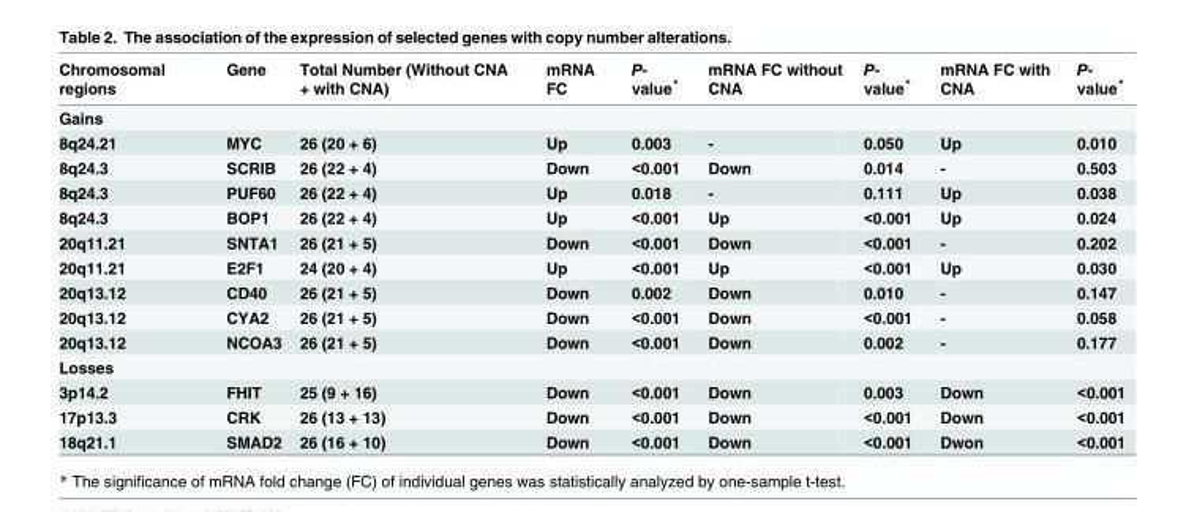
<table><thead><tr><td>Chromosomal regions</td><td>Gene</td><td>Total Number (Without CNA + with CNA)</td><td>mRNA FC</td><td>P- value*</td><td>mRNA FC without CNA</td><td>P- value*</td><td>mRNA FC with CNA</td><td>P- value*</td></tr></thead><tbody><tr><td colspan="9">Gains</td></tr><tr><td>8q24.21</td><td>MYC</td><td>26 (20 + 6)</td><td>Up</td><td>0.003</td><td>-</td><td>0.050</td><td>Up</td><td>0.010</td></tr><tr><td>8q24.3</td><td>SCRIB</td><td>26 (22 + 4)</td><td>Down</td><td>&lt;0.001</td><td>Down</td><td>0.014</td><td>-</td><td>0.503</td></tr><tr><td>8q24.3</td><td>PUF60</td><td>26 (22 + 4)</td><td>Up</td><td>0.018</td><td>-</td><td>0.111</td><td>Up</td><td>0.038</td></tr><tr><td>8q24.3</td><td>BOP1</td><td>26 (22 + 4)</td><td>Up</td><td>&lt;0.001</td><td>Up</td><td>&lt;0.001</td><td>Up</td><td>0.024</td></tr><tr><td>20q11.21</td><td>SNTA1</td><td>26 (21 + 5)</td><td>Down</td><td>&lt;0.001</td><td>Down</td><td>&lt;0.001</td><td>-</td><td>0.202</td></tr><tr><td>20q11.21</td><td>E2F1</td><td>24 (20 + 4)</td><td>Up</td><td>&lt;0.001</td><td>Up</td><td>&lt;0.001</td><td>Up</td><td>0.030</td></tr><tr><td>20q13.12</td><td>CD40</td><td>26 (21 + 5)</td><td>Down</td><td>0.002</td><td>Down</td><td>0.010</td><td>-</td><td>0.147</td></tr><tr><td>20q13.12</td><td>CYA2</td><td>26 (21 + 5)</td><td>Down</td><td>&lt;0.001</td><td>Down</td><td>&lt;0.001</td><td>-</td><td>0.058</td></tr><tr><td>20q13.12</td><td>NCOA3</td><td>26 (21 + 5)</td><td>Down</td><td>&lt;0.001</td><td>Down</td><td>0.002</td><td>-</td><td>0.177</td></tr><tr><td colspan="9">Losses</td></tr><tr><td>3p14.2</td><td>FHIT</td><td>25 (9 + 16)</td><td>Down</td><td>&lt;0.001</td><td>Down</td><td>0.003</td><td>Down</td><td>&lt;0.001</td></tr><tr><td>17p13.3</td><td>CRK</td><td>26 (13 + 13)</td><td>Down</td><td>&lt;0.001</td><td>Down</td><td>&lt;0.001</td><td>Down</td><td>&lt;0.001</td></tr><tr><td>18q21.1</td><td>SMAD2</td><td>26 (16 + 10)</td><td>Down</td><td>&lt;0.001</td><td>Down</td><td>&lt;0.001</td><td>Dwon</td><td>&lt;0.001</td></tr></tbody></table>